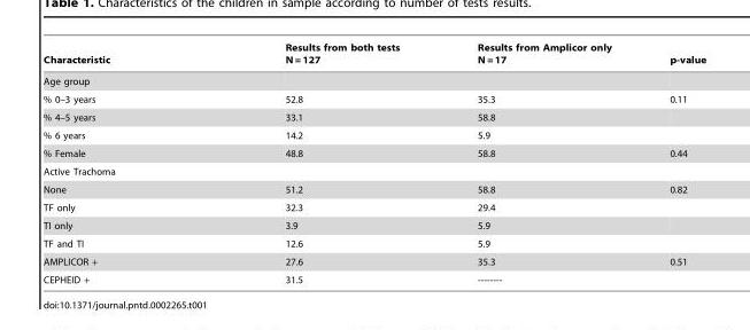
<table><thead><tr><td>Characteristic</td><td>Results from both tests N = 127</td><td>Results from Amplicor only N = 17</td><td>p-value</td></tr></thead><tbody><tr><td colspan="4">Age group</td></tr><tr><td>% 0–3 years</td><td>52.8</td><td>35.3</td><td>0.11</td></tr><tr><td>% 4–5 years</td><td>33.1</td><td>58.8</td><td></td></tr><tr><td>% 6 years</td><td>14.2</td><td>5.9</td><td></td></tr><tr><td>% Female</td><td>48.8</td><td>58.8</td><td>0.44</td></tr><tr><td colspan="4">Active Trachoma</td></tr><tr><td>None</td><td>51.2</td><td>58.8</td><td>0.82</td></tr><tr><td>TF only</td><td>32.3</td><td>29.4</td><td></td></tr><tr><td>TI only</td><td>3.9</td><td>5.9</td><td></td></tr><tr><td>TF and TI</td><td>12.6</td><td>5.9</td><td></td></tr><tr><td>AMPLICOR +</td><td>27.6</td><td>35.3</td><td>0.51</td></tr><tr><td>CEPHEID +</td><td>31.5</td><td>--------</td><td></td></tr></tbody></table>